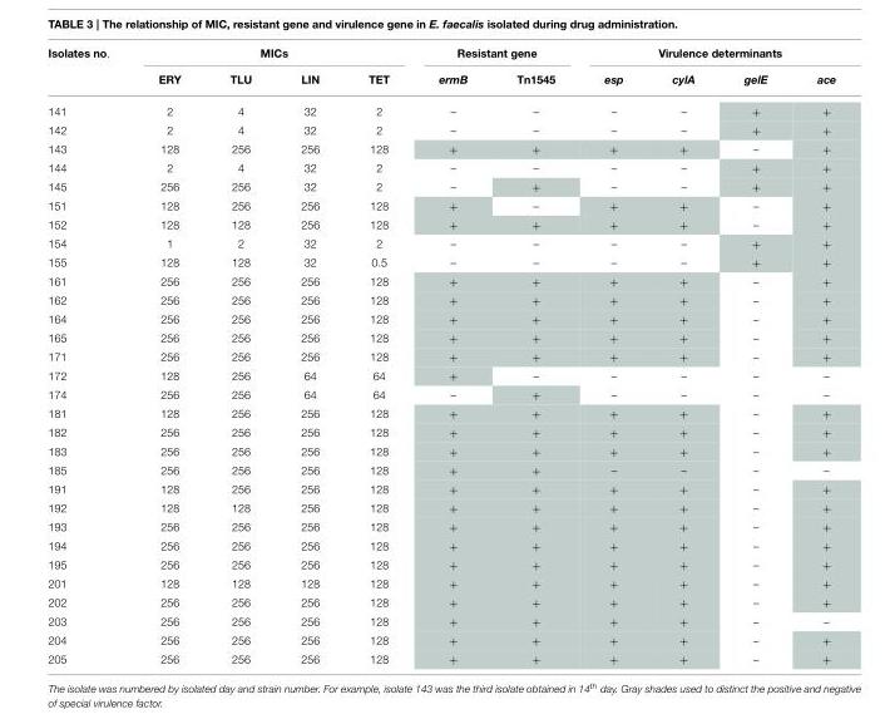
<table><thead><tr><td rowspan="2">Isolates no.</td><td colspan="4">MICs</td><td colspan="2">Resistant gene</td><td colspan="4">Virulence determinants</td></tr><tr><td>ERY</td><td>TLU</td><td>LIN</td><td>TET</td><td>ermB</td><td>Tn1545</td><td>esp</td><td>cylA</td><td>gelE</td><td>ace</td></tr></thead><tbody><tr><td>141</td><td>2</td><td>4</td><td>32</td><td>2</td><td>–</td><td>–</td><td>–</td><td>–</td><td>+</td><td>+</td></tr><tr><td>142</td><td>2</td><td>4</td><td>32</td><td>2</td><td>–</td><td>–</td><td>–</td><td>–</td><td>+</td><td>+</td></tr><tr><td>143</td><td>128</td><td>256</td><td>256</td><td>128</td><td>+</td><td>+</td><td>+</td><td>+</td><td>–</td><td>+</td></tr><tr><td>144</td><td>2</td><td>4</td><td>32</td><td>2</td><td>–</td><td>–</td><td>–</td><td>–</td><td>+</td><td>+</td></tr><tr><td>145</td><td>256</td><td>256</td><td>32</td><td>2</td><td>–</td><td>+</td><td>–</td><td>–</td><td>+</td><td>+</td></tr><tr><td>151</td><td>128</td><td>256</td><td>256</td><td>128</td><td>+</td><td>–</td><td>+</td><td>+</td><td>–</td><td>+</td></tr><tr><td>152</td><td>128</td><td>128</td><td>256</td><td>128</td><td>+</td><td>+</td><td>+</td><td>+</td><td>–</td><td>+</td></tr><tr><td>154</td><td>1</td><td>2</td><td>32</td><td>2</td><td>–</td><td>–</td><td>–</td><td>–</td><td>+</td><td>+</td></tr><tr><td>155</td><td>128</td><td>128</td><td>32</td><td>0.5</td><td>–</td><td>–</td><td>–</td><td>–</td><td>+</td><td>+</td></tr><tr><td>161</td><td>256</td><td>256</td><td>256</td><td>128</td><td>+</td><td>+</td><td>+</td><td>+</td><td>–</td><td>+</td></tr><tr><td>162</td><td>256</td><td>256</td><td>256</td><td>128</td><td>+</td><td>+</td><td>+</td><td>+</td><td>–</td><td>+</td></tr><tr><td>164</td><td>256</td><td>256</td><td>256</td><td>128</td><td>+</td><td>+</td><td>+</td><td>+</td><td>–</td><td>+</td></tr><tr><td>165</td><td>256</td><td>256</td><td>256</td><td>128</td><td>+</td><td>+</td><td>+</td><td>+</td><td>–</td><td>+</td></tr><tr><td>171</td><td>256</td><td>256</td><td>256</td><td>128</td><td>+</td><td>+</td><td>+</td><td>+</td><td>–</td><td>+</td></tr><tr><td>172</td><td>128</td><td>256</td><td>64</td><td>64</td><td>+</td><td>–</td><td>–</td><td>–</td><td>–</td><td>–</td></tr><tr><td>174</td><td>256</td><td>256</td><td>64</td><td>64</td><td>–</td><td>+</td><td>–</td><td>–</td><td>–</td><td>–</td></tr><tr><td>181</td><td>128</td><td>256</td><td>256</td><td>128</td><td>+</td><td>+</td><td>+</td><td>+</td><td>–</td><td>+</td></tr><tr><td>182</td><td>256</td><td>256</td><td>256</td><td>128</td><td>+</td><td>+</td><td>+</td><td>+</td><td>–</td><td>+</td></tr><tr><td>183</td><td>256</td><td>256</td><td>256</td><td>128</td><td>+</td><td>+</td><td>+</td><td>+</td><td>–</td><td>+</td></tr><tr><td>185</td><td>256</td><td>256</td><td>256</td><td>128</td><td>+</td><td>+</td><td>–</td><td>–</td><td>–</td><td>–</td></tr><tr><td>191</td><td>128</td><td>256</td><td>256</td><td>128</td><td>+</td><td>+</td><td>+</td><td>+</td><td>–</td><td>+</td></tr><tr><td>192</td><td>128</td><td>128</td><td>256</td><td>128</td><td>+</td><td>+</td><td>+</td><td>+</td><td>–</td><td>+</td></tr><tr><td>193</td><td>256</td><td>256</td><td>256</td><td>128</td><td>+</td><td>+</td><td>+</td><td>+</td><td>–</td><td>+</td></tr><tr><td>194</td><td>256</td><td>256</td><td>256</td><td>128</td><td>+</td><td>+</td><td>+</td><td>+</td><td>–</td><td>+</td></tr><tr><td>195</td><td>256</td><td>256</td><td>256</td><td>128</td><td>+</td><td>+</td><td>+</td><td>+</td><td>–</td><td>+</td></tr><tr><td>201</td><td>128</td><td>128</td><td>128</td><td>128</td><td>+</td><td>+</td><td>+</td><td>+</td><td>–</td><td>+</td></tr><tr><td>202</td><td>256</td><td>256</td><td>256</td><td>128</td><td>+</td><td>+</td><td>+</td><td>+</td><td>–</td><td>+</td></tr><tr><td>203</td><td>256</td><td>256</td><td>256</td><td>128</td><td>+</td><td>+</td><td>+</td><td>+</td><td>–</td><td>–</td></tr><tr><td>204</td><td>256</td><td>256</td><td>256</td><td>128</td><td>+</td><td>+</td><td>+</td><td>+</td><td>–</td><td>+</td></tr><tr><td>205</td><td>256</td><td>256</td><td>256</td><td>128</td><td>+</td><td>+</td><td>+</td><td>+</td><td>–</td><td>+</td></tr></tbody></table>